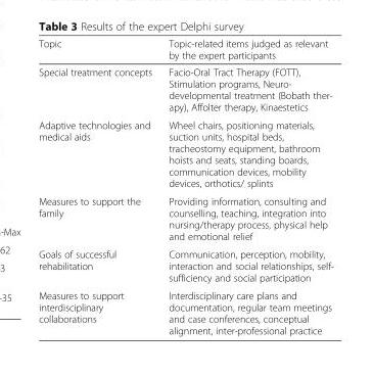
<table><thead><tr><td>Topic</td><td>Topic-related items judged as relevant by the expert participants</td></tr></thead><tbody><tr><td>Special treatment concepts</td><td>Facio-Oral Tract Therapy (FOTT), Stimulation programs, Neuro- developmental treatment (Bobath ther- apy), Affolter therapy, Kinaestetics</td></tr><tr><td>Adaptive technologies and medical aids</td><td>Wheel chairs, positioning materials, suction units, hospital beds, tracheostomy equipment, bathroom hoists and seats, standing boards, communication devices, mobility devices, orthotics/ splints</td></tr><tr><td>Measures to support the family</td><td>Providing information, consulting and counselling, teaching, integration into nursing/therapy process, physical help and emotional relief</td></tr><tr><td>Goals of successful rehabilitation</td><td>Communication, perception, mobility, interaction and social relationships, self- sufficiency and social participation</td></tr><tr><td>Measures to support interdisciplinary collaborations</td><td>Interdisciplinary care plans and documentation, regular team meetings and case conferences, conceptual alignment, inter-professional practice</td></tr></tbody></table>